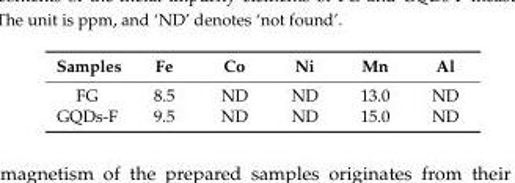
<table><thead><tr><td>Samples</td><td>Fe</td><td>Co</td><td>Ni</td><td>Mn</td><td>Al</td></tr></thead><tbody><tr><td>FG</td><td>8.5</td><td>ND</td><td>ND</td><td>13.0</td><td>ND</td></tr><tr><td>GQDs-F</td><td>9.5</td><td>ND</td><td>ND</td><td>15.0</td><td>ND</td></tr></tbody></table>